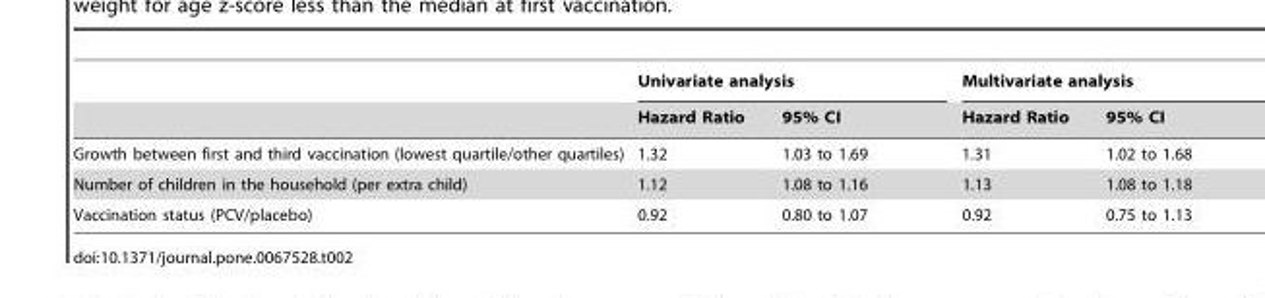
<table><thead><tr><td rowspan="2"></td><td colspan="2">Univariate analysis</td><td colspan="2">Multivariate analysis</td></tr><tr><td>Hazard Ratio</td><td>95% CI</td><td>Hazard Ratio</td><td>95% CI</td></tr></thead><tbody><tr><td>Growth between first and third vaccination (lowest quartile/other quartiles)</td><td>1.32</td><td>1.03 to 1.69</td><td>1.31</td><td>1.02 to 1.68</td></tr><tr><td>Number of children in the household (per extra child)</td><td>1.12</td><td>1.08 to 1.16</td><td>1.13</td><td>1.08 to 1.18</td></tr><tr><td>Vaccination status (PCV/placebo)</td><td>0.92</td><td>0.80 to 1.07</td><td>0.92</td><td>0.75 to 1.13</td></tr></tbody></table>